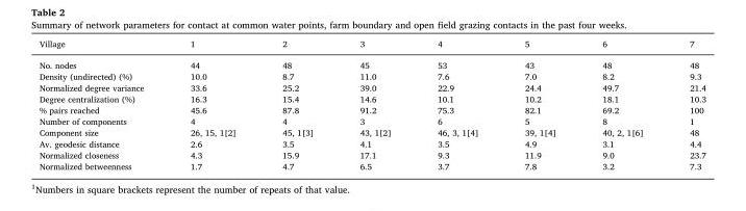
<table><thead><tr><td>Village</td><td>1</td><td>2</td><td>3</td><td>4</td><td>5</td><td>6</td><td>7</td></tr></thead><tbody><tr><td>No. nodes</td><td>44</td><td>48</td><td>45</td><td>53</td><td>43</td><td>48</td><td>48</td></tr><tr><td>Density (undirected) (%)</td><td>10.0</td><td>8.7</td><td>11.0</td><td>7.6</td><td>7.0</td><td>8.2</td><td>9.3</td></tr><tr><td>Normalized degree variance</td><td>33.6</td><td>25.2</td><td>39.0</td><td>22.9</td><td>24.4</td><td>49.7</td><td>21.4</td></tr><tr><td>Degree centralization (%)</td><td>16.3</td><td>15.4</td><td>14.6</td><td>10.1</td><td>10.2</td><td>18.1</td><td>10.3</td></tr><tr><td>% pairs reached</td><td>45.6</td><td>87.8</td><td>91.2</td><td>75.3</td><td>82.1</td><td>69.2</td><td>100</td></tr><tr><td>Number of components</td><td>4</td><td>4</td><td>3</td><td>6</td><td>5</td><td>8</td><td>1</td></tr><tr><td>Component size</td><td>26, 15, 1[2]</td><td>45, 1[3]</td><td>43, 1[2]</td><td>46, 3, 1[4]</td><td>39, 1[4]</td><td>40, 2, 1[6]</td><td>48</td></tr><tr><td>Av. geodesic distance</td><td>2.6</td><td>3.5</td><td>4.1</td><td>3.5</td><td>4.9</td><td>3.1</td><td>4.4</td></tr><tr><td>Normalized closeness</td><td>4.3</td><td>15.9</td><td>17.1</td><td>9.3</td><td>11.9</td><td>9.0</td><td>23.7</td></tr><tr><td>Normalized betweenness</td><td>1.7</td><td>4.7</td><td>6.5</td><td>3.7</td><td>7.8</td><td>3.2</td><td>7.3</td></tr></tbody></table>